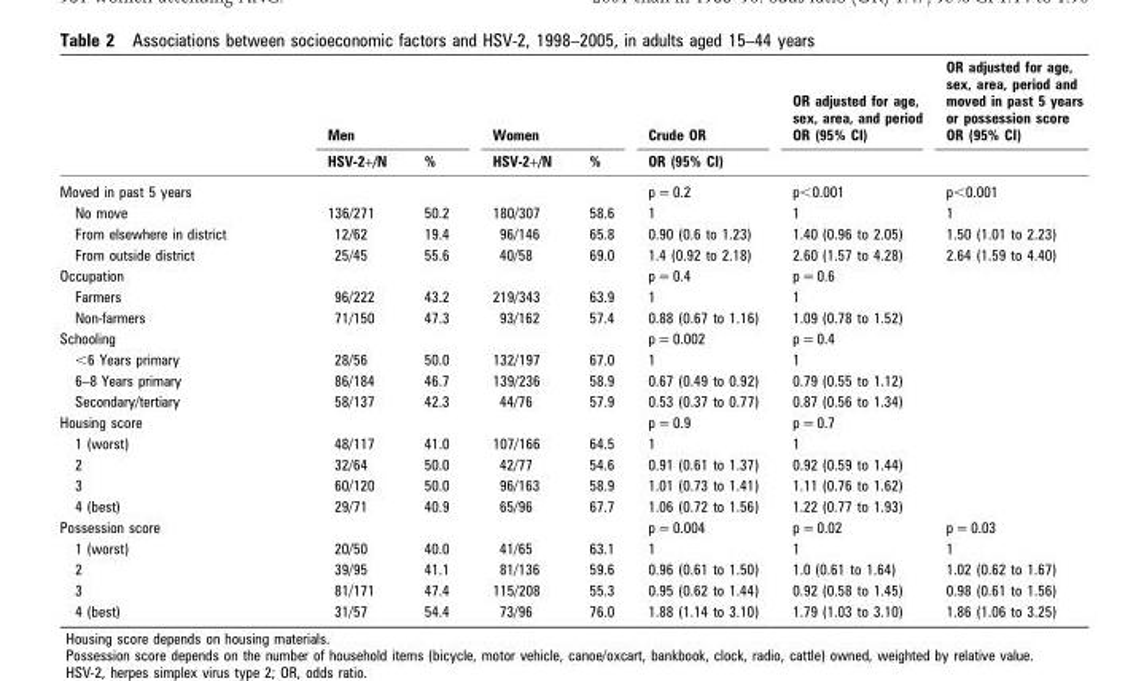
<table><thead><tr><td rowspan="2"></td><td colspan="2">Men</td><td colspan="2">Women</td><td rowspan="2">Crude OR OR (95% CI)</td><td rowspan="2">OR adjusted for age, sex, area, and period OR (95% CI)</td><td rowspan="2">OR adjusted for age, sex, area, period and moved in past 5 years or possession score OR (95% CI)</td></tr><tr><td>HSV-2+/N</td><td>%</td><td>HSV-2+/N</td><td>%</td></tr></thead><tbody><tr><td>Moved in past 5 years</td><td></td><td></td><td></td><td></td><td>p = 0.2</td><td>p&lt;0.001</td><td>p&lt;0.001</td></tr><tr><td>No move</td><td>136/271</td><td>50.2</td><td>180/307</td><td>58.6</td><td>1</td><td>1</td><td>1</td></tr><tr><td>From elsewhere in district</td><td>12/62</td><td>19.4</td><td>96/146</td><td>65.8</td><td>0.90 (0.6 to 1.23)</td><td>1.40 (0.96 to 2.05)</td><td>1.50 (1.01 to 2.23)</td></tr><tr><td>From outside district</td><td>25/45</td><td>55.6</td><td>40/58</td><td>69.0</td><td>1.4 (0.92 to 2.18)</td><td>2.60 (1.57 to 4.28)</td><td>2.64 (1.59 to 4.40)</td></tr><tr><td>Occupation</td><td></td><td></td><td></td><td></td><td>p = 0.4</td><td>p = 0.6</td><td></td></tr><tr><td>Farmers</td><td>96/222</td><td>43.2</td><td>219/343</td><td>63.9</td><td>1</td><td>1</td><td></td></tr><tr><td>Non-farmers</td><td>71/150</td><td>47.3</td><td>93/162</td><td>57.4</td><td>0.88 (0.67 to 1.16)</td><td>1.09 (0.78 to 1.52)</td><td></td></tr><tr><td>Schooling</td><td></td><td></td><td></td><td></td><td>p = 0.002</td><td>p = 0.4</td><td></td></tr><tr><td>&lt;6 Years primary</td><td>28/56</td><td>50.0</td><td>132/197</td><td>67.0</td><td>1</td><td>1</td><td></td></tr><tr><td>6–8 Years primary</td><td>86/184</td><td>46.7</td><td>139/236</td><td>58.9</td><td>0.67 (0.49 to 0.92)</td><td>0.79 (0.55 to 1.12)</td><td></td></tr><tr><td>Secondary/tertiary</td><td>58/137</td><td>42.3</td><td>44/76</td><td>57.9</td><td>0.53 (0.37 to 0.77)</td><td>0.87 (0.56 to 1.34)</td><td></td></tr><tr><td>Housing score</td><td></td><td></td><td></td><td></td><td>p = 0.9</td><td>p = 0.7</td><td></td></tr><tr><td>1 (worst)</td><td>48/117</td><td>41.0</td><td>107/166</td><td>64.5</td><td>1</td><td>1</td><td></td></tr><tr><td>2</td><td>32/64</td><td>50.0</td><td>42/77</td><td>54.6</td><td>0.91 (0.61 to 1.37)</td><td>0.92 (0.59 to 1.44)</td><td></td></tr><tr><td>3</td><td>60/120</td><td>50.0</td><td>96/163</td><td>58.9</td><td>1.01 (0.73 to 1.41)</td><td>1.11 (0.76 to 1.62)</td><td></td></tr><tr><td>4 (best)</td><td>29/71</td><td>40.9</td><td>65/96</td><td>67.7</td><td>1.06 (0.72 to 1.56)</td><td>1.22 (0.77 to 1.93)</td><td></td></tr><tr><td>Possession score</td><td></td><td></td><td></td><td></td><td>p = 0.004</td><td>p = 0.02</td><td>p = 0.03</td></tr><tr><td>1 (worst)</td><td>20/50</td><td>40.0</td><td>41/65</td><td>63.1</td><td>1</td><td>1</td><td>1</td></tr><tr><td>2</td><td>39/95</td><td>41.1</td><td>81/136</td><td>59.6</td><td>0.96 (0.61 to 1.50)</td><td>1.0 (0.61 to 1.64)</td><td>1.02 (0.62 to 1.67)</td></tr><tr><td>3</td><td>81/171</td><td>47.4</td><td>115/208</td><td>55.3</td><td>0.95 (0.62 to 1.44)</td><td>0.92 (0.58 to 1.45)</td><td>0.98 (0.61 to 1.56)</td></tr><tr><td>4 (best)</td><td>31/57</td><td>54.4</td><td>73/96</td><td>76.0</td><td>1.88 (1.14 to 3.10)</td><td>1.79 (1.03 to 3.10)</td><td>1.86 (1.06 to 3.25)</td></tr></tbody></table>